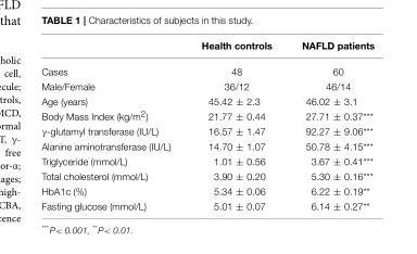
<table><thead><tr><td></td><td>Health controls</td><td>NAFLD patients</td></tr></thead><tbody><tr><td>Cases</td><td>48</td><td>60</td></tr><tr><td>Male/Female</td><td>36/12</td><td>46/14</td></tr><tr><td>Age (years)</td><td>45.42 ± 2.3</td><td>46.02 ± 3.1</td></tr><tr><td>Body Mass Index (kg/m<sup>2</sup>)</td><td>21.77 ± 0.44</td><td>27.71 ± 0.37***</td></tr><tr><td>γ-glutamyl transferase (IU/L)</td><td>16.57 ± 1.47</td><td>92.27 ± 9.06***</td></tr><tr><td>Alanine aminotransferase (IU/L)</td><td>14.70 ± 1.07</td><td>50.78 ± 4.15***</td></tr><tr><td>Triglyceride (mmol/L)</td><td>1.01 ± 0.56</td><td>3.67 ± 0.41***</td></tr><tr><td>Total cholesterol (mmol/L)</td><td>3.90 ± 0.20</td><td>5.30 ± 0.16***</td></tr><tr><td>HbA1c (%)</td><td>5.34 ± 0.06</td><td>6.22 ± 0.19**</td></tr><tr><td>Fasting glucose (mmol/L)</td><td>5.01 ± 0.07</td><td>6.14 ± 0.27**</td></tr></tbody></table>